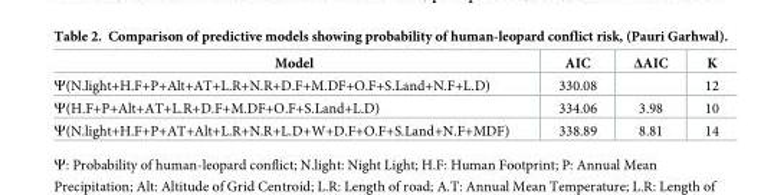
<table><thead><tr><td>Model</td><td>AIC</td><td>ΔAIC</td><td>K</td></tr></thead><tbody><tr><td>Ψ(N.light+H.F+P+Alt+AT+L.R+N.R+D.F+M.DF+O.F+S.Land+N.F+L.D)</td><td>330.08</td><td></td><td>12</td></tr><tr><td>Ψ(H.F+P+Alt+AT+L.R+D.F+M.DF+O.F+S.Land+L.D)</td><td>334.06</td><td>3.98</td><td>10</td></tr><tr><td>Ψ(N.light+H.F+P+AT+Alt+L.R+N.R+L.D+W+D.F+O.F+S.Land+N.F+MDF)</td><td>338.89</td><td>8.81</td><td>14</td></tr></tbody></table>